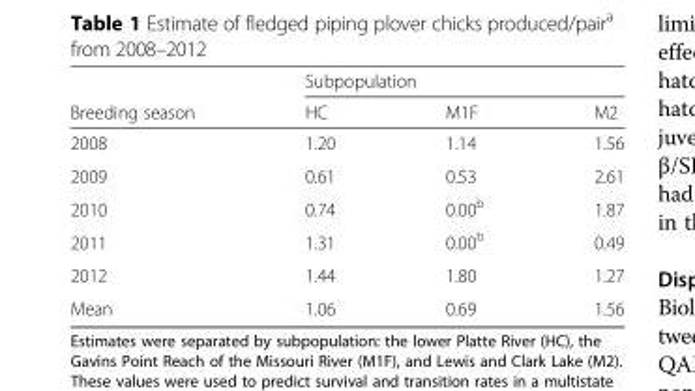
<table><thead><tr><td rowspan="2">Breeding season</td><td colspan="3">Subpopulation</td></tr><tr><td>HC</td><td>M1F</td><td>M2</td></tr></thead><tbody><tr><td>2008</td><td>1.20</td><td>1.14</td><td>1.56</td></tr><tr><td>2009</td><td>0.61</td><td>0.53</td><td>2.61</td></tr><tr><td>2010</td><td>0.74</td><td>0.00<sup>b</sup></td><td>1.87</td></tr><tr><td>2011</td><td>1.31</td><td>0.00<sup>b</sup></td><td>0.49</td></tr><tr><td>2012</td><td>1.44</td><td>1.80</td><td>1.27</td></tr><tr><td>Mean</td><td>1.06</td><td>0.69</td><td>1.56</td></tr></tbody></table>